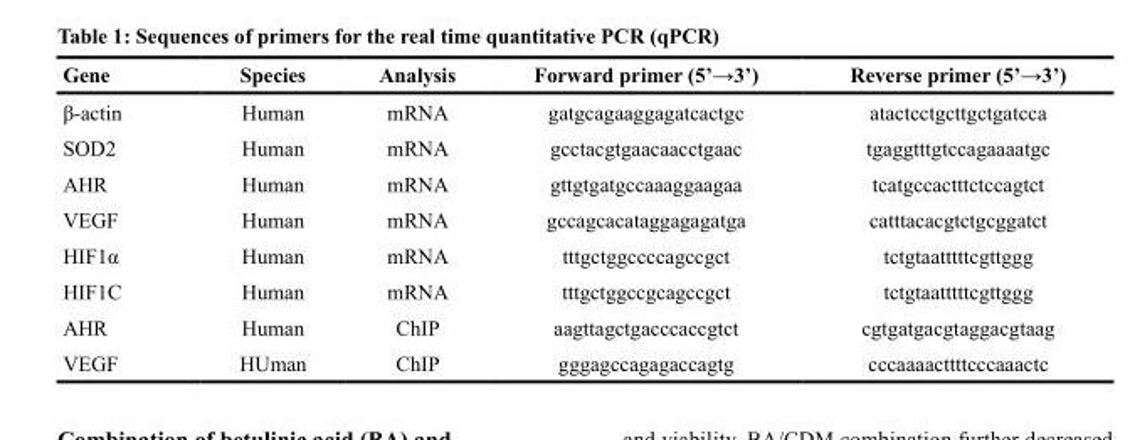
<table><thead><tr><td>Gene</td><td>Species</td><td>Analysis</td><td>Forward primer (5’→3’)</td><td>Reverse primer (5’→3’)</td></tr></thead><tbody><tr><td>β-actin</td><td>Human</td><td>mRNA</td><td>gatgcagaaggagatcactgc</td><td>atactcctgcttgctgatcca</td></tr><tr><td>SOD2</td><td>Human</td><td>mRNA</td><td>gcctacgtgaacaacctgaac</td><td>tgaggtttgtccagaaaatgc</td></tr><tr><td>AHR</td><td>Human</td><td>mRNA</td><td>gttgtgatgccaaaggaagaa</td><td>tcatgccactttctccagtct</td></tr><tr><td>VEGF</td><td>Human</td><td>mRNA</td><td>gccagcacataggagagatga</td><td>catttacacgtctgcggatct</td></tr><tr><td>HIF1α</td><td>Human</td><td>mRNA</td><td>tttgctggccccagccgct</td><td>tctgtaatttttcgttggg</td></tr><tr><td>HIF1C</td><td>Human</td><td>mRNA</td><td>tttgctggccgcagccgct</td><td>tctgtaatttttcgttggg</td></tr><tr><td>AHR</td><td>Human</td><td>ChIP</td><td>aagttagctgacccaccgtct</td><td>cgtgatgacgtaggacgtaag</td></tr><tr><td>VEGF</td><td>HUman</td><td>ChIP</td><td>gggagccagagaccagtg</td><td>cccaaaacttttcccaaactc</td></tr></tbody></table>